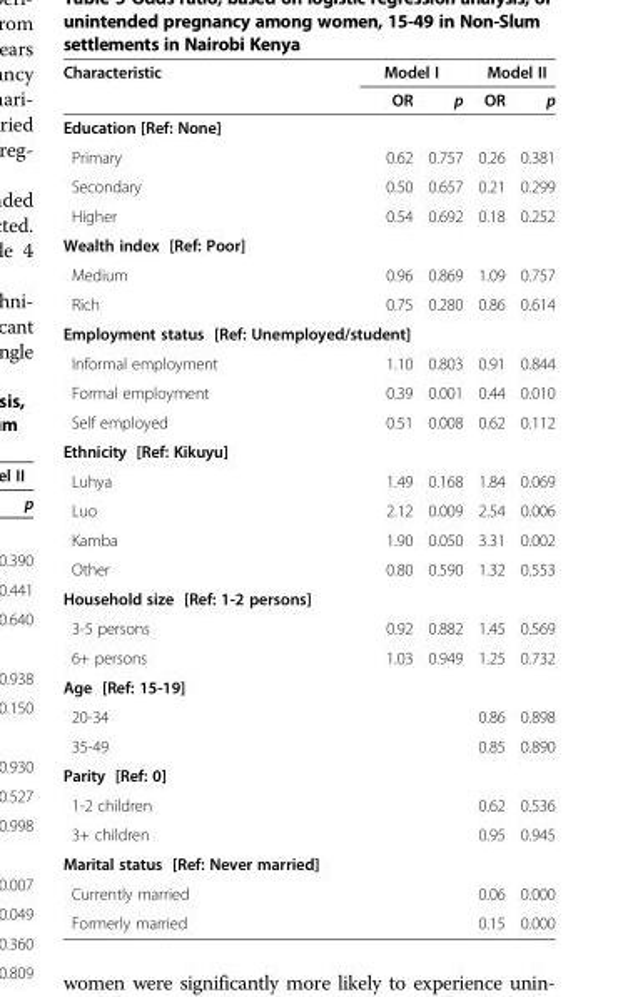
<table><thead><tr><td rowspan="2">Characteristic</td><td colspan="2">Model I</td><td colspan="2">Model II</td></tr><tr><td>OR</td><td>p</td><td>OR</td><td>p</td></tr></thead><tbody><tr><td colspan="5">Education [Ref: None]</td></tr><tr><td>Primary</td><td>0.62</td><td>0.757</td><td>0.26</td><td>0.381</td></tr><tr><td>Secondary</td><td>0.50</td><td>0.657</td><td>0.21</td><td>0.299</td></tr><tr><td>Higher</td><td>0.54</td><td>0.692</td><td>0.18</td><td>0.252</td></tr><tr><td colspan="5">Wealth index [Ref: Poor]</td></tr><tr><td>Medium</td><td>0.96</td><td>0.869</td><td>1.09</td><td>0.757</td></tr><tr><td>Rich</td><td>0.75</td><td>0.280</td><td>0.86</td><td>0.614</td></tr><tr><td colspan="5">Employment status [Ref: Unemployed/student]</td></tr><tr><td>Informal employment</td><td>1.10</td><td>0.803</td><td>0.91</td><td>0.844</td></tr><tr><td>Formal employment</td><td>0.39</td><td>0.001</td><td>0.44</td><td>0.010</td></tr><tr><td>Self employed</td><td>0.51</td><td>0.008</td><td>0.62</td><td>0.112</td></tr><tr><td colspan="5">Ethnicity [Ref: Kikuyu]</td></tr><tr><td>Luhya</td><td>1.49</td><td>0.168</td><td>1.84</td><td>0.069</td></tr><tr><td>Luo</td><td>2.12</td><td>0.009</td><td>2.54</td><td>0.006</td></tr><tr><td>Kamba</td><td>1.90</td><td>0.050</td><td>3.31</td><td>0.002</td></tr><tr><td>Other</td><td>0.80</td><td>0.590</td><td>1.32</td><td>0.553</td></tr><tr><td colspan="5">Household size [Ref: 1-2 persons]</td></tr><tr><td>3-5 persons</td><td>0.92</td><td>0.882</td><td>1.45</td><td>0.569</td></tr><tr><td>6+ persons</td><td>1.03</td><td>0.949</td><td>1.25</td><td>0.732</td></tr><tr><td colspan="5">Age [Ref: 15-19]</td></tr><tr><td>20-34</td><td></td><td></td><td>0.86</td><td>0.898</td></tr><tr><td>35-49</td><td></td><td></td><td>0.85</td><td>0.890</td></tr><tr><td colspan="5">Parity [Ref: 0]</td></tr><tr><td>1-2 children</td><td></td><td></td><td>0.62</td><td>0.536</td></tr><tr><td>3+ children</td><td></td><td></td><td>0.95</td><td>0.945</td></tr><tr><td colspan="5">Marital status [Ref: Never married]</td></tr><tr><td>Currently married</td><td></td><td></td><td>0.06</td><td>0.000</td></tr><tr><td>Formerly married</td><td></td><td></td><td>0.15</td><td>0.000</td></tr></tbody></table>